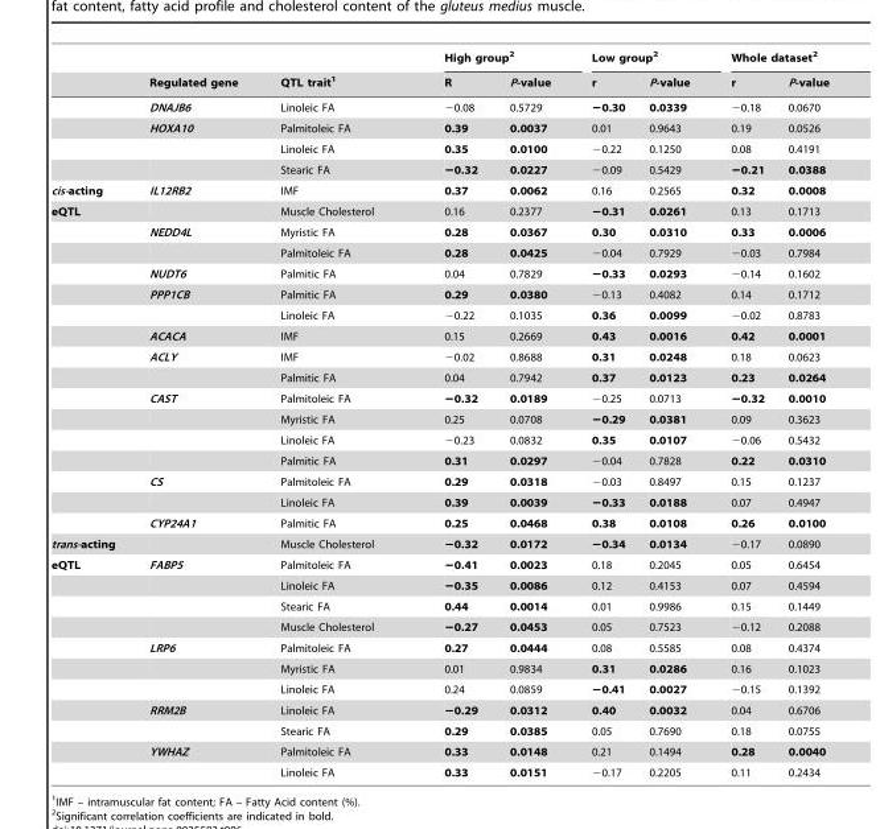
<table><thead><tr><td rowspan="2"></td><td rowspan="2">Regulated gene</td><td rowspan="2">QTL trait<sup>1</sup></td><td colspan="2">High group<sup>2</sup></td><td colspan="2">Low group<sup>2</sup></td><td colspan="2">Whole dataset<sup>2</sup></td></tr><tr><td>R</td><td>P-value</td><td>r</td><td>P-value</td><td>r</td><td>P-value</td></tr></thead><tbody><tr><td></td><td>DNAJB6</td><td>Linoleic FA</td><td>−0.08</td><td>0.5729</td><td>−0.30</td><td>0.0339</td><td>−0.18</td><td>0.0670</td></tr><tr><td></td><td>HOXA10</td><td>Palmitoleic FA</td><td>0.39</td><td>0.0037</td><td>0.01</td><td>0.9643</td><td>0.19</td><td>0.0526</td></tr><tr><td></td><td></td><td>Linoleic FA</td><td>0.35</td><td>0.0100</td><td>−0.22</td><td>0.1250</td><td>0.08</td><td>0.4191</td></tr><tr><td></td><td></td><td>Stearic FA</td><td>−0.32</td><td>0.0227</td><td>−0.09</td><td>0.5429</td><td>−0.21</td><td>0.0388</td></tr><tr><td>cis-acting</td><td>IL12RB2</td><td>IMF</td><td>0.37</td><td>0.0062</td><td>0.16</td><td>0.2565</td><td>0.32</td><td>0.0008</td></tr><tr><td rowspan="16">eQTL</td><td></td><td>Muscle Cholesterol</td><td>0.16</td><td>0.2377</td><td>−0.31</td><td>0.0261</td><td>0.13</td><td>0.1713</td></tr><tr><td>NEDD4L</td><td>Myristic FA</td><td>0.28</td><td>0.0367</td><td>0.30</td><td>0.0310</td><td>0.33</td><td>0.0006</td></tr><tr><td></td><td>Palmitoleic FA</td><td>0.28</td><td>0.0425</td><td>−0.04</td><td>0.7929</td><td>−0.03</td><td>0.7984</td></tr><tr><td>NUDT6</td><td>Palmitic FA</td><td>0.04</td><td>0.7829</td><td>−0.33</td><td>0.0293</td><td>−0.14</td><td>0.1602</td></tr><tr><td>PPP1CB</td><td>Palmitic FA</td><td>0.29</td><td>0.0380</td><td>−0.13</td><td>0.4082</td><td>0.14</td><td>0.1712</td></tr><tr><td></td><td>Linoleic FA</td><td>−0.22</td><td>0.1035</td><td>0.36</td><td>0.0099</td><td>−0.02</td><td>0.8783</td></tr><tr><td>ACACA</td><td>IMF</td><td>0.15</td><td>0.2669</td><td>0.43</td><td>0.0016</td><td>0.42</td><td>0.0001</td></tr><tr><td>ACLY</td><td>IMF</td><td>−0.02</td><td>0.8688</td><td>0.31</td><td>0.0248</td><td>0.18</td><td>0.0623</td></tr><tr><td></td><td>Palmitic FA</td><td>0.04</td><td>0.7942</td><td>0.37</td><td>0.0123</td><td>0.23</td><td>0.0264</td></tr><tr><td>CAST</td><td>Palmitoleic FA</td><td>−0.32</td><td>0.0189</td><td>−0.25</td><td>0.0713</td><td>−0.32</td><td>0.0010</td></tr><tr><td></td><td>Myristic FA</td><td>0.25</td><td>0.0708</td><td>−0.29</td><td>0.0381</td><td>0.09</td><td>0.3623</td></tr><tr><td></td><td>Linoleic FA</td><td>−0.23</td><td>0.0832</td><td>0.35</td><td>0.0107</td><td>−0.06</td><td>0.5432</td></tr><tr><td></td><td>Palmitic FA</td><td>0.31</td><td>0.0297</td><td>−0.04</td><td>0.7828</td><td>0.22</td><td>0.0310</td></tr><tr><td>CS</td><td>Palmitoleic FA</td><td>0.29</td><td>0.0318</td><td>−0.03</td><td>0.8497</td><td>0.15</td><td>0.1237</td></tr><tr><td></td><td>Linoleic FA</td><td>0.39</td><td>0.0039</td><td>−0.33</td><td>0.0188</td><td>0.07</td><td>0.4947</td></tr><tr><td>CYP24A1</td><td>Palmitic FA</td><td>0.25</td><td>0.0468</td><td>0.38</td><td>0.0108</td><td>0.26</td><td>0.0100</td></tr><tr><td>trans-acting</td><td></td><td>Muscle Cholesterol</td><td>−0.32</td><td>0.0172</td><td>−0.34</td><td>0.0134</td><td>−0.17</td><td>0.0890</td></tr><tr><td rowspan="11">eQTL</td><td>FABP5</td><td>Palmitoleic FA</td><td>−0.41</td><td>0.0023</td><td>0.18</td><td>0.2045</td><td>0.05</td><td>0.6454</td></tr><tr><td></td><td>Linoleic FA</td><td>−0.35</td><td>0.0086</td><td>0.12</td><td>0.4153</td><td>0.07</td><td>0.4594</td></tr><tr><td></td><td>Stearic FA</td><td>0.44</td><td>0.0014</td><td>0.01</td><td>0.9986</td><td>0.15</td><td>0.1449</td></tr><tr><td></td><td>Muscle Cholesterol</td><td>−0.27</td><td>0.0453</td><td>0.05</td><td>0.7523</td><td>−0.12</td><td>0.2088</td></tr><tr><td>LRP6</td><td>Palmitoleic FA</td><td>0.27</td><td>0.0444</td><td>0.08</td><td>0.5585</td><td>0.08</td><td>0.4374</td></tr><tr><td></td><td>Myristic FA</td><td>0.01</td><td>0.9834</td><td>0.31</td><td>0.0286</td><td>0.16</td><td>0.1023</td></tr><tr><td></td><td>Linoleic FA</td><td>0.24</td><td>0.0859</td><td>−0.41</td><td>0.0027</td><td>−0.15</td><td>0.1392</td></tr><tr><td>RRM2B</td><td>Linoleic FA</td><td>−0.29</td><td>0.0312</td><td>0.40</td><td>0.0032</td><td>0.04</td><td>0.6706</td></tr><tr><td></td><td>Stearic FA</td><td>0.29</td><td>0.0385</td><td>0.05</td><td>0.7690</td><td>0.18</td><td>0.0755</td></tr><tr><td>YWHAZ</td><td>Palmitoleic FA</td><td>0.33</td><td>0.0148</td><td>0.21</td><td>0.1494</td><td>0.28</td><td>0.0040</td></tr><tr><td></td><td>Linoleic FA</td><td>0.33</td><td>0.0151</td><td>−0.17</td><td>0.2205</td><td>0.11</td><td>0.2434</td></tr></tbody></table>